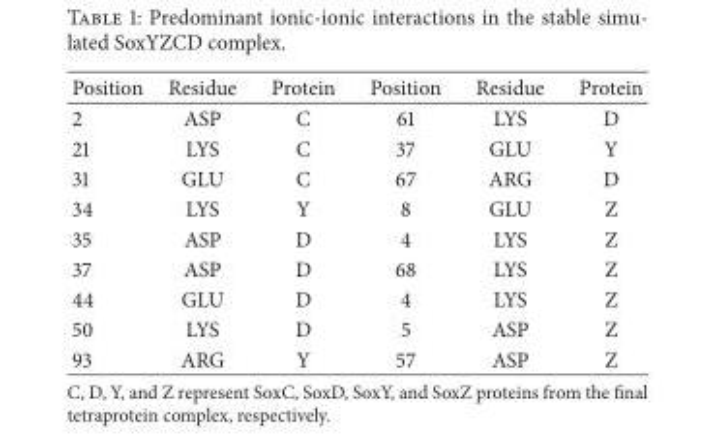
<table><thead><tr><td>Position</td><td>Residue</td><td>Protein</td><td>Position</td><td>Residue</td><td>Protein</td></tr></thead><tbody><tr><td>2</td><td>ASP</td><td>C</td><td>61</td><td>LYS</td><td>D</td></tr><tr><td>21</td><td>LYS</td><td>C</td><td>37</td><td>GLU</td><td>Y</td></tr><tr><td>31</td><td>GLU</td><td>C</td><td>67</td><td>ARG</td><td>D</td></tr><tr><td>34</td><td>LYS</td><td>Y</td><td>8</td><td>GLU</td><td>Z</td></tr><tr><td>35</td><td>ASP</td><td>D</td><td>4</td><td>LYS</td><td>Z</td></tr><tr><td>37</td><td>ASP</td><td>D</td><td>68</td><td>LYS</td><td>Z</td></tr><tr><td>44</td><td>GLU</td><td>D</td><td>4</td><td>LYS</td><td>Z</td></tr><tr><td>50</td><td>LYS</td><td>D</td><td>5</td><td>ASP</td><td>Z</td></tr><tr><td>93</td><td>ARG</td><td>Y</td><td>57</td><td>ASP</td><td>Z</td></tr></tbody></table>